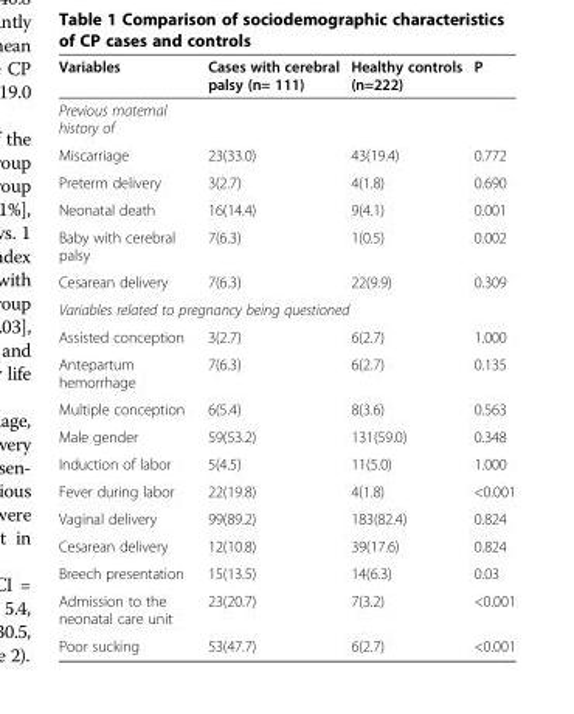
<table><thead><tr><td>Variables</td><td>Cases with cerebral palsy (n= 111)</td><td>Healthy controls (n=222)</td><td>P</td></tr></thead><tbody><tr><td colspan="4">Previous maternal history of</td></tr><tr><td>Miscarriage</td><td>23(33.0)</td><td>43(19.4)</td><td>0.772</td></tr><tr><td>Preterm delivery</td><td>3(2.7)</td><td>4(1.8)</td><td>0.690</td></tr><tr><td>Neonatal death</td><td>16(14.4)</td><td>9(4.1)</td><td>0.001</td></tr><tr><td>Baby with cerebral palsy</td><td>7(6.3)</td><td>1(0.5)</td><td>0.002</td></tr><tr><td>Cesarean delivery</td><td>7(6.3)</td><td>22(9.9)</td><td>0.309</td></tr><tr><td colspan="4">Variables related to pregnancy being questioned</td></tr><tr><td>Assisted conception</td><td>3(2.7)</td><td>6(2.7)</td><td>1.000</td></tr><tr><td>Antepartum hemorrhage</td><td>7(6.3)</td><td>6(2.7)</td><td>0.135</td></tr><tr><td>Multiple conception</td><td>6(5.4)</td><td>8(3.6)</td><td>0.563</td></tr><tr><td>Male gender</td><td>59(53.2)</td><td>131(59.0)</td><td>0.348</td></tr><tr><td>Induction of labor</td><td>5(4.5)</td><td>11(5.0)</td><td>1.000</td></tr><tr><td>Fever during labor</td><td>22(19.8)</td><td>4(1.8)</td><td>&lt;0.001</td></tr><tr><td>Vaginal delivery</td><td>99(89.2)</td><td>183(82.4)</td><td>0.824</td></tr><tr><td>Cesarean delivery</td><td>12(10.8)</td><td>39(17.6)</td><td>0.824</td></tr><tr><td>Breech presentation</td><td>15(13.5)</td><td>14(6.3)</td><td>0.03</td></tr><tr><td>Admission to the neonatal care unit</td><td>23(20.7)</td><td>7(3.2)</td><td>&lt;0.001</td></tr><tr><td>Poor sucking</td><td>53(47.7)</td><td>6(2.7)</td><td>&lt;0.001</td></tr></tbody></table>